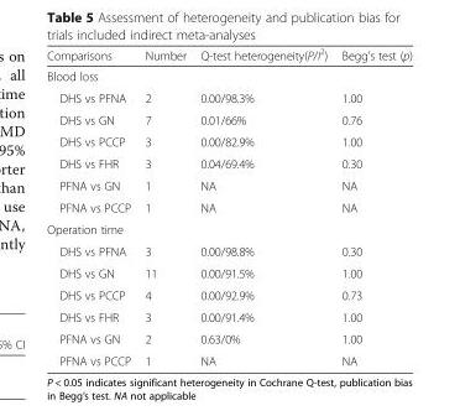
<table><thead><tr><td>Comparisons</td><td>Number</td><td>Q-test heterogeneity(P/I<sup>2</sup>)</td><td>Begg’s test (p)</td></tr></thead><tbody><tr><td colspan="4">Blood loss</td></tr><tr><td>DHS vs PFNA</td><td>2</td><td>0.00/98.3%</td><td>1.00</td></tr><tr><td>DHS vs GN</td><td>7</td><td>0.01/66%</td><td>0.76</td></tr><tr><td>DHS vs PCCP</td><td>3</td><td>0.00/82.9%</td><td>1.00</td></tr><tr><td>DHS vs FHR</td><td>3</td><td>0.04/69.4%</td><td>0.30</td></tr><tr><td>PFNA vs GN</td><td>1</td><td>NA</td><td>NA</td></tr><tr><td>PFNA vs PCCP</td><td>1</td><td>NA</td><td>NA</td></tr><tr><td colspan="4">Operation time</td></tr><tr><td>DHS vs PFNA</td><td>3</td><td>0.00/98.8%</td><td>0.30</td></tr><tr><td>DHS vs GN</td><td>11</td><td>0.00/91.5%</td><td>1.00</td></tr><tr><td>DHS vs PCCP</td><td>4</td><td>0.00/92.9%</td><td>0.73</td></tr><tr><td>DHS vs FHR</td><td>3</td><td>0.00/91.4%</td><td>1.00</td></tr><tr><td>PFNA vs GN</td><td>2</td><td>0.63/0%</td><td>1.00</td></tr><tr><td>PFNA vs PCCP</td><td>1</td><td>NA</td><td>NA</td></tr></tbody></table>